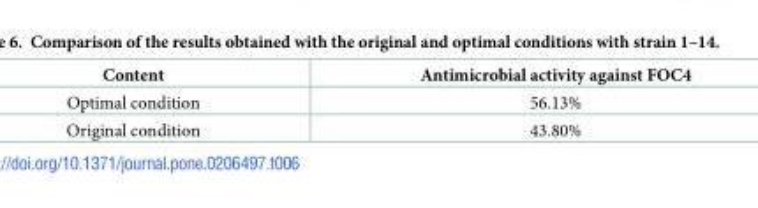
<table><thead><tr><td>Content</td><td>Antimicrobial activity against FOC4</td></tr></thead><tbody><tr><td>Optimal condition</td><td>56.13%</td></tr><tr><td>Original condition</td><td>43.80%</td></tr></tbody></table>